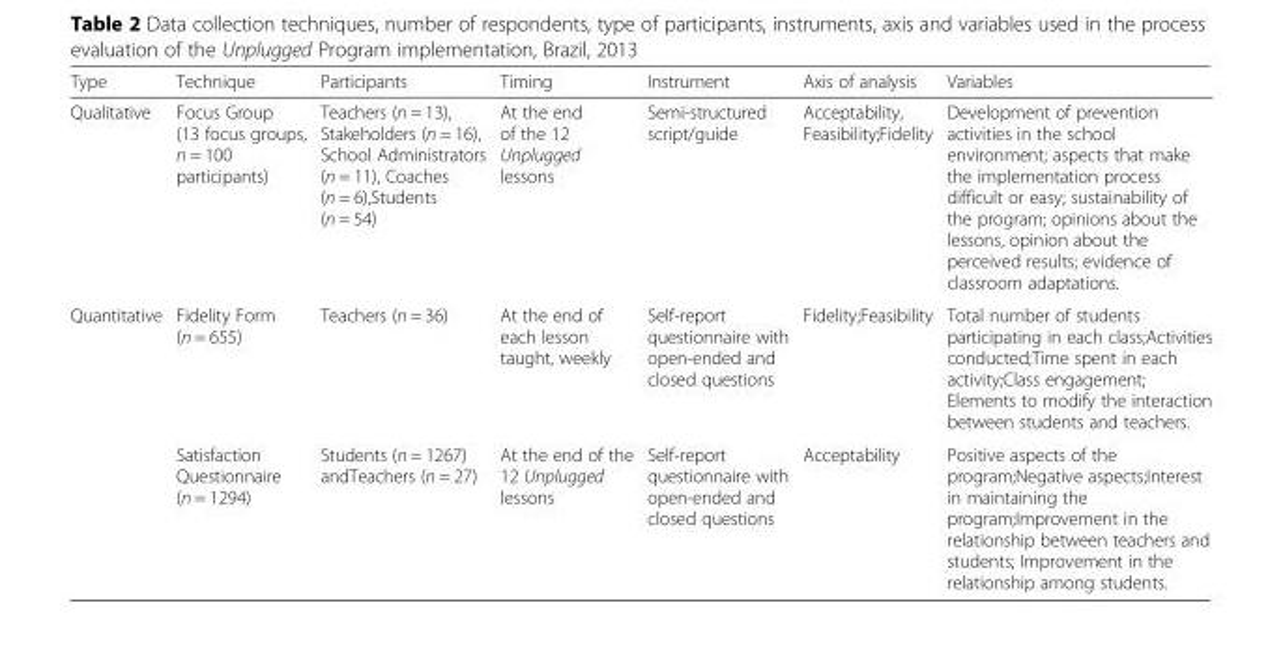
<table><thead><tr><td>Type</td><td>Technique</td><td>Participants</td><td>Timing</td><td>Instrument</td><td>Axis of analysis</td><td>Variables</td></tr></thead><tbody><tr><td>Qualitative</td><td>Focus Group (13 focus groups, n = 100 participants)</td><td>Teachers (n = 13), Stakeholders (n = 16), School Administrators (n = 11), Coaches (n = 6),Students (n = 54)</td><td>At the end of the 12 Unplugged lessons</td><td>Semi-structured script/guide</td><td>Acceptability, Feasibility;Fidelity</td><td>Development of prevention activities in the school environment; aspects that make the implementation process difficult or easy; sustainability of the program; opinions about the lessons, opinion about the perceived results; evidence of classroom adaptations.</td></tr><tr><td rowspan="2">Quantitative</td><td>Fidelity Form (n = 655)</td><td>Teachers (n = 36)</td><td>At the end of each lesson taught, weekly</td><td>Self-report questionnaire with open-ended and closed questions</td><td>Fidelity;Feasibility</td><td>Total number of students participating in each class;Activities conducted;Time spent in each activity;Class engagement; Elements to modify the interaction between students and teachers.</td></tr><tr><td>Satisfaction Questionnaire (n = 1294)</td><td>Students (n = 1267) andTeachers (n = 27)</td><td>At the end of the 12 Unplugged lessons</td><td>Self-report questionnaire with open-ended and closed questions</td><td>Acceptability</td><td>Positive aspects of the program;Negative aspects;Interest in maintaining the program;Improvement in the relationship between teachers and students; Improvement in the relationship among students.</td></tr></tbody></table>